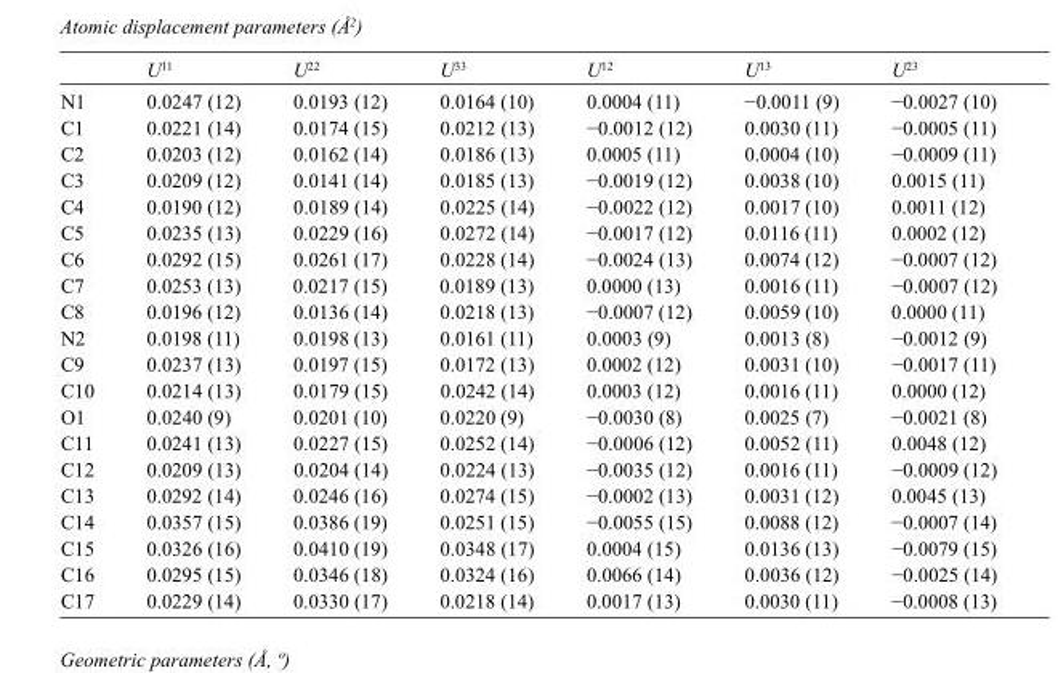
<table><thead><tr><td></td><td>U<sup>11</sup></td><td>U<sup>22</sup></td><td>U<sup>33</sup></td><td>U<sup>12</sup></td><td>U<sup>13</sup></td><td>U<sup>23</sup></td></tr></thead><tbody><tr><td>N1</td><td>0.0247 (12)</td><td>0.0193 (12)</td><td>0.0164 (10)</td><td>0.0004 (11)</td><td>−0.0011 (9)</td><td>−0.0027 (10)</td></tr><tr><td>C1</td><td>0.0221 (14)</td><td>0.0174 (15)</td><td>0.0212 (13)</td><td>−0.0012 (12)</td><td>0.0030 (11)</td><td>−0.0005 (11)</td></tr><tr><td>C2</td><td>0.0203 (12)</td><td>0.0162 (14)</td><td>0.0186 (13)</td><td>0.0005 (11)</td><td>0.0004 (10)</td><td>−0.0009 (11)</td></tr><tr><td>C3</td><td>0.0209 (12)</td><td>0.0141 (14)</td><td>0.0185 (13)</td><td>−0.0019 (12)</td><td>0.0038 (10)</td><td>0.0015 (11)</td></tr><tr><td>C4</td><td>0.0190 (12)</td><td>0.0189 (14)</td><td>0.0225 (14)</td><td>−0.0022 (12)</td><td>0.0017 (10)</td><td>0.0011 (12)</td></tr><tr><td>C5</td><td>0.0235 (13)</td><td>0.0229 (16)</td><td>0.0272 (14)</td><td>−0.0017 (12)</td><td>0.0116 (11)</td><td>0.0002 (12)</td></tr><tr><td>C6</td><td>0.0292 (15)</td><td>0.0261 (17)</td><td>0.0228 (14)</td><td>−0.0024 (13)</td><td>0.0074 (12)</td><td>−0.0007 (12)</td></tr><tr><td>C7</td><td>0.0253 (13)</td><td>0.0217 (15)</td><td>0.0189 (13)</td><td>0.0000 (13)</td><td>0.0016 (11)</td><td>−0.0007 (12)</td></tr><tr><td>C8</td><td>0.0196 (12)</td><td>0.0136 (14)</td><td>0.0218 (13)</td><td>−0.0007 (12)</td><td>0.0059 (10)</td><td>0.0000 (11)</td></tr><tr><td>N2</td><td>0.0198 (11)</td><td>0.0198 (13)</td><td>0.0161 (11)</td><td>0.0003 (9)</td><td>0.0013 (8)</td><td>−0.0012 (9)</td></tr><tr><td>C9</td><td>0.0237 (13)</td><td>0.0197 (15)</td><td>0.0172 (13)</td><td>0.0002 (12)</td><td>0.0031 (10)</td><td>−0.0017 (11)</td></tr><tr><td>C10</td><td>0.0214 (13)</td><td>0.0179 (15)</td><td>0.0242 (14)</td><td>0.0003 (12)</td><td>0.0016 (11)</td><td>0.0000 (12)</td></tr><tr><td>O1</td><td>0.0240 (9)</td><td>0.0201 (10)</td><td>0.0220 (9)</td><td>−0.0030 (8)</td><td>0.0025 (7)</td><td>−0.0021 (8)</td></tr><tr><td>C11</td><td>0.0241 (13)</td><td>0.0227 (15)</td><td>0.0252 (14)</td><td>−0.0006 (12)</td><td>0.0052 (11)</td><td>0.0048 (12)</td></tr><tr><td>C12</td><td>0.0209 (13)</td><td>0.0204 (14)</td><td>0.0224 (13)</td><td>−0.0035 (12)</td><td>0.0016 (11)</td><td>−0.0009 (12)</td></tr><tr><td>C13</td><td>0.0292 (14)</td><td>0.0246 (16)</td><td>0.0274 (15)</td><td>−0.0002 (13)</td><td>0.0031 (12)</td><td>0.0045 (13)</td></tr><tr><td>C14</td><td>0.0357 (15)</td><td>0.0386 (19)</td><td>0.0251 (15)</td><td>−0.0055 (15)</td><td>0.0088 (12)</td><td>−0.0007 (14)</td></tr><tr><td>C15</td><td>0.0326 (16)</td><td>0.0410 (19)</td><td>0.0348 (17)</td><td>0.0004 (15)</td><td>0.0136 (13)</td><td>−0.0079 (15)</td></tr><tr><td>C16</td><td>0.0295 (15)</td><td>0.0346 (18)</td><td>0.0324 (16)</td><td>0.0066 (14)</td><td>0.0036 (12)</td><td>−0.0025 (14)</td></tr><tr><td>C17</td><td>0.0229 (14)</td><td>0.0330 (17)</td><td>0.0218 (14)</td><td>0.0017 (13)</td><td>0.0030 (11)</td><td>−0.0008 (13)</td></tr></tbody></table>